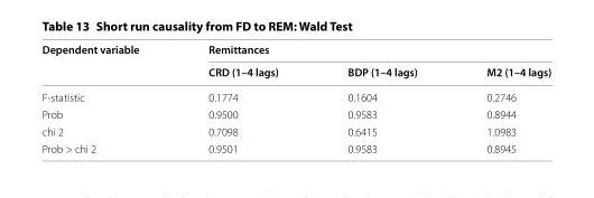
<table><thead><tr><td rowspan="2">Dependent variable</td><td colspan="3">Remittances</td></tr><tr><td>CRD (1–4 lags)</td><td>BDP (1–4 lags)</td><td>M2 (1–4 lags)</td></tr></thead><tbody><tr><td>F-statistic</td><td>0.1774</td><td>0.1604</td><td>0.2746</td></tr><tr><td>Prob</td><td>0.9500</td><td>0.9583</td><td>0.8944</td></tr><tr><td>chi 2</td><td>0.7098</td><td>0.6415</td><td>1.0983</td></tr><tr><td>Prob &gt; chi 2</td><td>0.9501</td><td>0.9583</td><td>0.8945</td></tr></tbody></table>